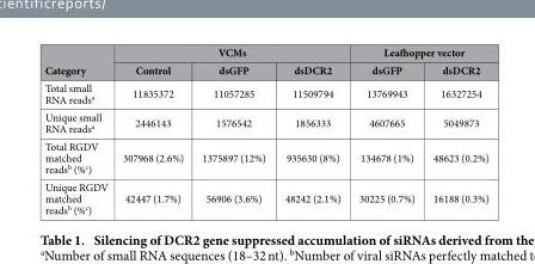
<table><thead><tr><td rowspan="2">Category</td><td colspan="3">VCMs</td><td colspan="2">Leafhopper vector</td></tr><tr><td>Control</td><td>dsGFP</td><td>dsDCR2</td><td>dsGFP</td><td>dsDCR2</td></tr></thead><tbody><tr><td>Total small RNA reads<sup>a</sup></td><td>11835372</td><td>11057285</td><td>11509794</td><td>13769943</td><td>16327254</td></tr><tr><td>Unique small RNA reads<sup>a</sup></td><td>2446143</td><td>1576542</td><td>1856333</td><td>4607665</td><td>5049873</td></tr><tr><td>Total RGDV matched reads<sup>b</sup> (%<sup>c</sup>)</td><td>307968 (2.6%)</td><td>1375897 (12%)</td><td>935630 (8%)</td><td>134678 (1%)</td><td>48623 (0.2%)</td></tr><tr><td>Unique RGDV matched reads<sup>b</sup> (%<sup>c</sup>)</td><td>42447 (1.7%)</td><td>56906 (3.6%)</td><td>48242 (2.1%)</td><td>30225 (0.7%)</td><td>16188 (0.3%)</td></tr></tbody></table>